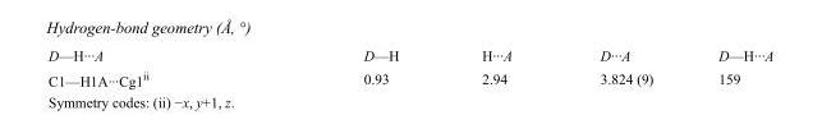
<table><tbody><tr><td>D—H···A</td><td>D—H</td><td>H···A</td><td>D···A</td><td>D—H···A</td></tr><tr><td>C1—H1A···Cg1<sup>ii</sup></td><td>0.93</td><td>2.94</td><td>3.824 (9)</td><td>159</td></tr></tbody></table>